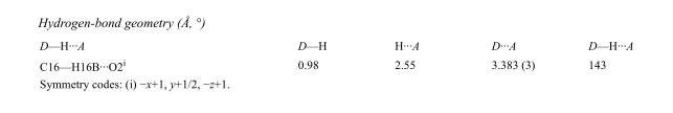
<table><tbody><tr><td>D—H···A</td><td>D—H</td><td>H···A</td><td>D···A</td><td>D—H···A</td></tr><tr><td>C16—H16B···O2<sup>i</sup></td><td>0.98</td><td>2.55</td><td>3.383 (3)</td><td>143</td></tr></tbody></table>